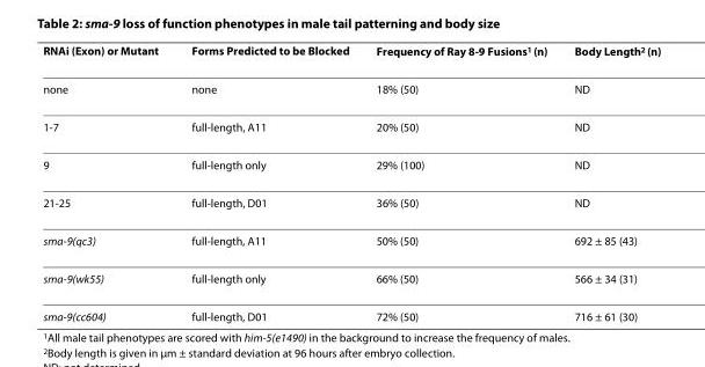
<table><thead><tr><td>RNAi (Exon) or Mutant</td><td>Forms Predicted to be Blocked</td><td>Frequency of Ray 8-9 Fusions<sup>1</sup> (n)</td><td>Body Length<sup>2</sup> (n)</td></tr></thead><tbody><tr><td>none</td><td>none</td><td>18% (50)</td><td>ND</td></tr><tr><td>1-7</td><td>full-length, A11</td><td>20% (50)</td><td>ND</td></tr><tr><td>9</td><td>full-length only</td><td>29% (100)</td><td>ND</td></tr><tr><td>21-25</td><td>full-length, D01</td><td>36% (50)</td><td>ND</td></tr><tr><td>sma-9(qc3)</td><td>full-length, A11</td><td>50% (50)</td><td>692 ± 85 (43)</td></tr><tr><td>sma-9(wk55)</td><td>full-length only</td><td>66% (50)</td><td>566 ± 34 (31)</td></tr><tr><td>sma-9(cc604)</td><td>full-length, D01</td><td>72% (50)</td><td>716 ± 61 (30)</td></tr></tbody></table>